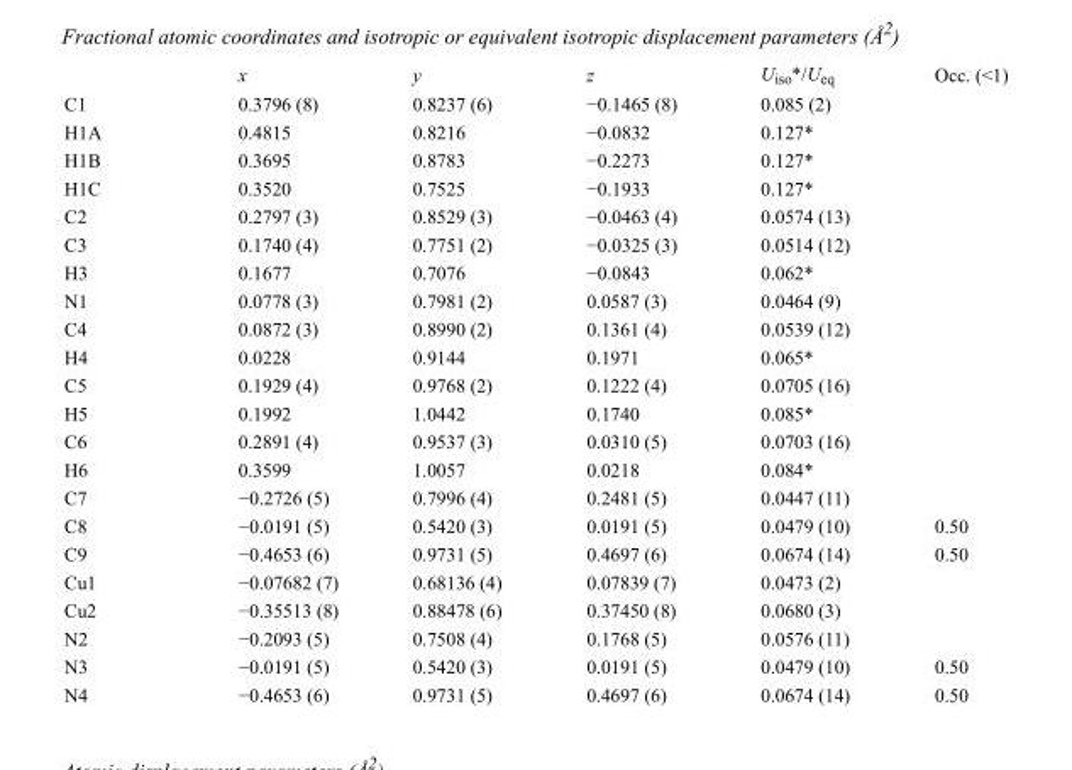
<table><thead><tr><td></td><td>x</td><td>y</td><td>z</td><td>U<sub>iso</sub>*/U<sub>eq</sub></td><td>Occ. (&lt;1)</td></tr></thead><tbody><tr><td>C1</td><td>0.3796 (8)</td><td>0.8237 (6)</td><td>−0.1465 (8)</td><td>0.085 (2)</td><td></td></tr><tr><td>H1A</td><td>0.4815</td><td>0.8216</td><td>−0.0832</td><td>0.127*</td><td></td></tr><tr><td>H1B</td><td>0.3695</td><td>0.8783</td><td>−0.2273</td><td>0.127*</td><td></td></tr><tr><td>H1C</td><td>0.3520</td><td>0.7525</td><td>−0.1933</td><td>0.127*</td><td></td></tr><tr><td>C2</td><td>0.2797 (3)</td><td>0.8529 (3)</td><td>−0.0463 (4)</td><td>0.0574 (13)</td><td></td></tr><tr><td>C3</td><td>0.1740 (4)</td><td>0.7751 (2)</td><td>−0.0325 (3)</td><td>0.0514 (12)</td><td></td></tr><tr><td>H3</td><td>0.1677</td><td>0.7076</td><td>−0.0843</td><td>0.062*</td><td></td></tr><tr><td>N1</td><td>0.0778 (3)</td><td>0.7981 (2)</td><td>0.0587 (3)</td><td>0.0464 (9)</td><td></td></tr><tr><td>C4</td><td>0.0872 (3)</td><td>0.8990 (2)</td><td>0.1361 (4)</td><td>0.0539 (12)</td><td></td></tr><tr><td>H4</td><td>0.0228</td><td>0.9144</td><td>0.1971</td><td>0.065*</td><td></td></tr><tr><td>C5</td><td>0.1929 (4)</td><td>0.9768 (2)</td><td>0.1222 (4)</td><td>0.0705 (16)</td><td></td></tr><tr><td>H5</td><td>0.1992</td><td>1.0442</td><td>0.1740</td><td>0.085*</td><td></td></tr><tr><td>C6</td><td>0.2891 (4)</td><td>0.9537 (3)</td><td>0.0310 (5)</td><td>0.0703 (16)</td><td></td></tr><tr><td>H6</td><td>0.3599</td><td>1.0057</td><td>0.0218</td><td>0.084*</td><td></td></tr><tr><td>C7</td><td>−0.2726 (5)</td><td>0.7996 (4)</td><td>0.2481 (5)</td><td>0.0447 (11)</td><td></td></tr><tr><td>C8</td><td>−0.0191 (5)</td><td>0.5420 (3)</td><td>0.0191 (5)</td><td>0.0479 (10)</td><td>0.50</td></tr><tr><td>C9</td><td>−0.4653 (6)</td><td>0.9731 (5)</td><td>0.4697 (6)</td><td>0.0674 (14)</td><td>0.50</td></tr><tr><td>Cu1</td><td>−0.07682 (7)</td><td>0.68136 (4)</td><td>0.07839 (7)</td><td>0.0473 (2)</td><td></td></tr><tr><td>Cu2</td><td>−0.35513 (8)</td><td>0.88478 (6)</td><td>0.37450 (8)</td><td>0.0680 (3)</td><td></td></tr><tr><td>N2</td><td>−0.2093 (5)</td><td>0.7508 (4)</td><td>0.1768 (5)</td><td>0.0576 (11)</td><td></td></tr><tr><td>N3</td><td>−0.0191 (5)</td><td>0.5420 (3)</td><td>0.0191 (5)</td><td>0.0479 (10)</td><td>0.50</td></tr><tr><td>N4</td><td>−0.4653 (6)</td><td>0.9731 (5)</td><td>0.4697 (6)</td><td>0.0674 (14)</td><td>0.50</td></tr></tbody></table>